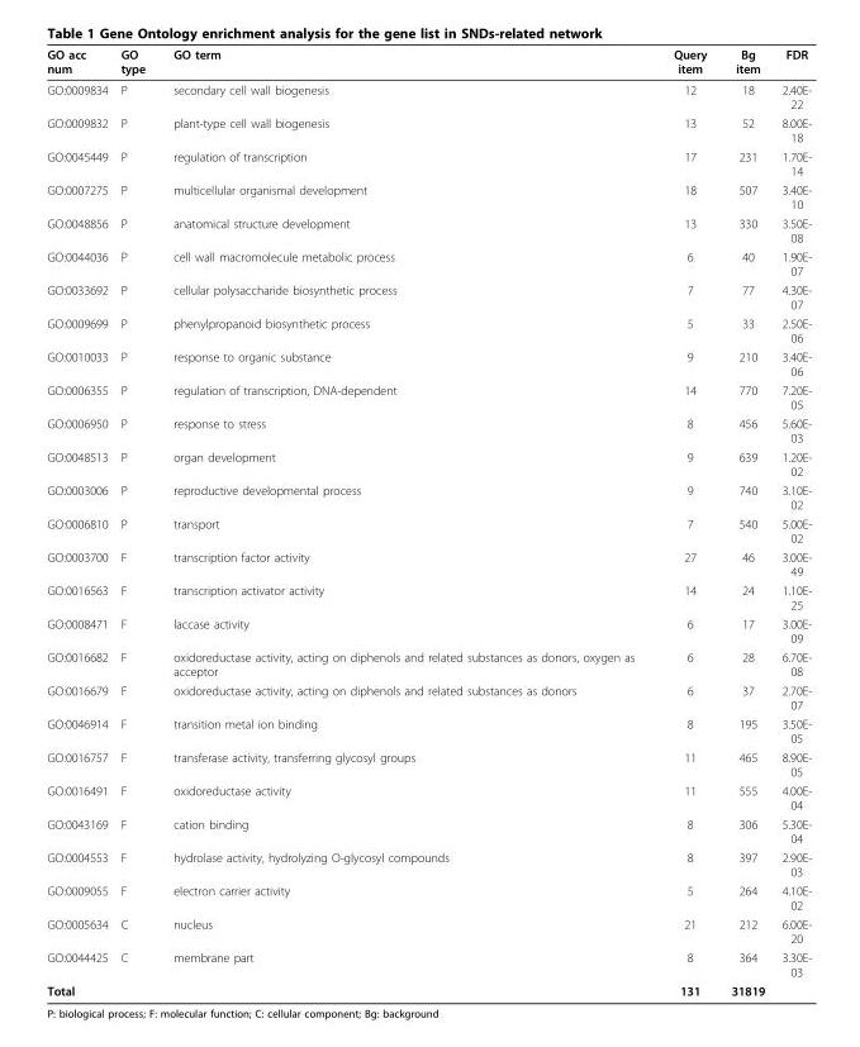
<table><thead><tr><td>GO acc num</td><td>GO type</td><td>GO term</td><td>Query item</td><td>Bg item</td><td>FDR</td></tr></thead><tbody><tr><td>GO:0009834</td><td>P</td><td>secondary cell wall biogenesis</td><td>12</td><td>18</td><td>2.40E- 22</td></tr><tr><td>GO:0009832</td><td>P</td><td>plant-type cell wall biogenesis</td><td>13</td><td>52</td><td>8.00E- 18</td></tr><tr><td>GO:0045449</td><td>P</td><td>regulation of transcription</td><td>17</td><td>231</td><td>1.70E- 14</td></tr><tr><td>GO:0007275</td><td>P</td><td>multicellular organismal development</td><td>18</td><td>507</td><td>3.40E- 10</td></tr><tr><td>GO:0048856</td><td>P</td><td>anatomical structure development</td><td>13</td><td>330</td><td>3.50E- 08</td></tr><tr><td>GO:0044036</td><td>P</td><td>cell wall macromolecule metabolic process</td><td>6</td><td>40</td><td>1.90E- 07</td></tr><tr><td>GO:0033692</td><td>P</td><td>cellular polysaccharide biosynthetic process</td><td>7</td><td>77</td><td>4.30E- 07</td></tr><tr><td>GO:0009699</td><td>P</td><td>phenylpropanoid biosynthetic process</td><td>5</td><td>33</td><td>2.50E- 06</td></tr><tr><td>GO:0010033</td><td>P</td><td>response to organic substance</td><td>9</td><td>210</td><td>3.40E- 06</td></tr><tr><td>GO:0006355</td><td>P</td><td>regulation of transcription, DNA-dependent</td><td>14</td><td>770</td><td>7.20E- 05</td></tr><tr><td>GO:0006950</td><td>P</td><td>response to stress</td><td>8</td><td>456</td><td>5.60E- 03</td></tr><tr><td>GO:0048513</td><td>P</td><td>organ development</td><td>9</td><td>639</td><td>1.20E- 02</td></tr><tr><td>GO:0003006</td><td>P</td><td>reproductive developmental process</td><td>9</td><td>740</td><td>3.10E- 02</td></tr><tr><td>GO:0006810</td><td>P</td><td>transport</td><td>7</td><td>540</td><td>5.00E- 02</td></tr><tr><td>GO:0003700</td><td>F</td><td>transcription factor activity</td><td>27</td><td>46</td><td>3.00E- 49</td></tr><tr><td>GO:0016563</td><td>F</td><td>transcription activator activity</td><td>14</td><td>24</td><td>1.10E- 25</td></tr><tr><td>GO:0008471</td><td>F</td><td>laccase activity</td><td>6</td><td>17</td><td>3.00E- 09</td></tr><tr><td>GO:0016682</td><td>F</td><td>oxidoreductase activity, acting on diphenols and related substances as donors, oxygen as acceptor</td><td>6</td><td>28</td><td>6.70E- 08</td></tr><tr><td>GO:0016679</td><td>F</td><td>oxidoreductase activity, acting on diphenols and related substances as donors</td><td>6</td><td>37</td><td>2.70E- 07</td></tr><tr><td>GO:0046914</td><td>F</td><td>transition metal ion binding</td><td>8</td><td>195</td><td>3.50E- 05</td></tr><tr><td>GO:0016757</td><td>F</td><td>transferase activity, transferring glycosyl groups</td><td>11</td><td>465</td><td>8.90E- 05</td></tr><tr><td>GO:0016491</td><td>F</td><td>oxidoreductase activity</td><td>11</td><td>555</td><td>4.00E- 04</td></tr><tr><td>GO:0043169</td><td>F</td><td>cation binding</td><td>8</td><td>306</td><td>5.30E- 04</td></tr><tr><td>GO:0004553</td><td>F</td><td>hydrolase activity, hydrolyzing O-glycosyl compounds</td><td>8</td><td>397</td><td>2.90E- 03</td></tr><tr><td>GO:0009055</td><td>F</td><td>electron carrier activity</td><td>5</td><td>264</td><td>4.10E- 02</td></tr><tr><td>GO:0005634</td><td>C</td><td>nucleus</td><td>21</td><td>212</td><td>6.00E- 20</td></tr><tr><td>GO:0044425</td><td>C</td><td>membrane part</td><td>8</td><td>364</td><td>3.30E- 03</td></tr><tr><td>Total</td><td></td><td></td><td>131</td><td>31819</td><td></td></tr></tbody></table>